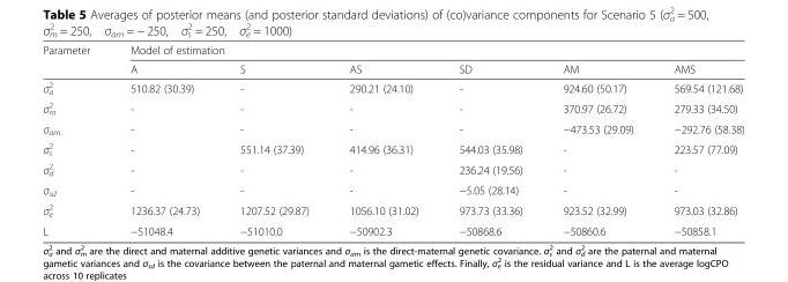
<table><thead><tr><td rowspan="2">Parameter</td><td colspan="6">Model of estimation</td></tr><tr><td>A</td><td>S</td><td>AS</td><td>SD</td><td>AM</td><td>AMS</td></tr></thead><tbody><tr><td>σ<sub>a</sub> <sup>2</sup></td><td>510.82 (30.39)</td><td>-</td><td>290.21 (24.10)</td><td>-</td><td>924.60 (50.17)</td><td>569.54 (121.68)</td></tr><tr><td>σ<sub>m</sub> <sup>2</sup></td><td>-</td><td>-</td><td>-</td><td>-</td><td>370.97 (26.72)</td><td>279.33 (34.50)</td></tr><tr><td>σ<sub>am</sub></td><td>-</td><td>-</td><td>-</td><td>-</td><td>−473.53 (29.09)</td><td>−292.76 (58.38)</td></tr><tr><td>σ<sub>s</sub> <sup>2</sup></td><td>-</td><td>551.14 (37.39)</td><td>414.96 (36.31)</td><td>544.03 (35.98)</td><td>-</td><td>223.57 (77.09)</td></tr><tr><td>σ<sub>d</sub> <sup>2</sup></td><td>-</td><td>-</td><td>-</td><td>236.24 (19.56)</td><td>-</td><td>-</td></tr><tr><td>σ<sub>sd</sub></td><td>-</td><td>-</td><td>-</td><td>−5.05 (28.14)</td><td>-</td><td>-</td></tr><tr><td>σ<sub>e</sub> <sup>2</sup></td><td>1236.37 (24.73)</td><td>1207.52 (29.87)</td><td>1056.10 (31.02)</td><td>973.73 (33.36)</td><td>923.52 (32.99)</td><td>973.03 (32.86)</td></tr><tr><td>L</td><td>−51048.4</td><td>−51010.0</td><td>−50902.3</td><td>−50868.6</td><td>−50860.6</td><td>−50858.1</td></tr></tbody></table>